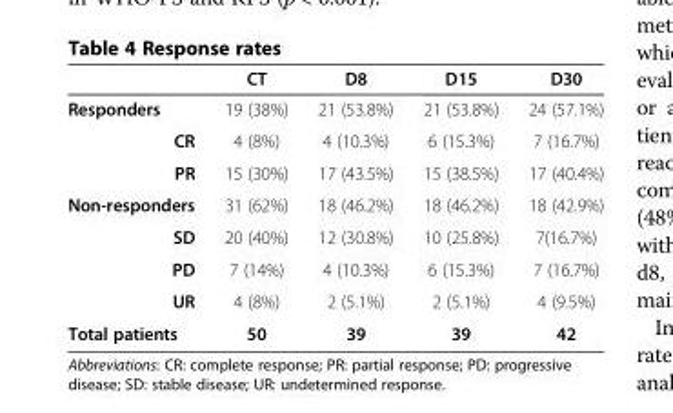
<table><thead><tr><td></td><td>CT</td><td>D8</td><td>D15</td><td>D30</td></tr></thead><tbody><tr><td>Responders</td><td>19 (38%)</td><td>21 (53.8%)</td><td>21 (53.8%)</td><td>24 (57.1%)</td></tr><tr><td>CR</td><td>4 (8%)</td><td>4 (10.3%)</td><td>6 (15.3%)</td><td>7 (16.7%)</td></tr><tr><td>PR</td><td>15 (30%)</td><td>17 (43.5%)</td><td>15 (38.5%)</td><td>17 (40.4%)</td></tr><tr><td>Non-responders</td><td>31 (62%)</td><td>18 (46.2%)</td><td>18 (46.2%)</td><td>18 (42.9%)</td></tr><tr><td>SD</td><td>20 (40%)</td><td>12 (30.8%)</td><td>10 (25.8%)</td><td>7(16.7%)</td></tr><tr><td>PD</td><td>7 (14%)</td><td>4 (10.3%)</td><td>6 (15.3%)</td><td>7 (16.7%)</td></tr><tr><td>UR</td><td>4 (8%)</td><td>2 (5.1%)</td><td>2 (5.1%)</td><td>4 (9.5%)</td></tr><tr><td>Total patients</td><td>50</td><td>39</td><td>39</td><td>42</td></tr></tbody></table>